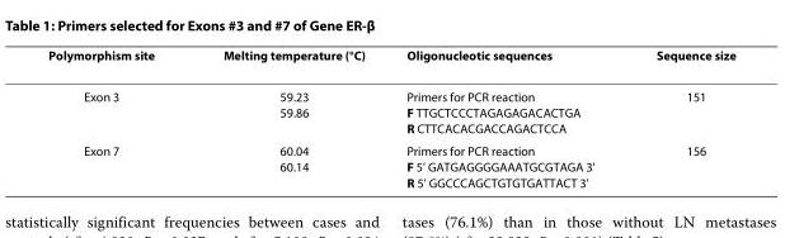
<table><thead><tr><td>Polymorphism site</td><td>Melting temperature (°C)</td><td>Oligonucleotic sequences</td><td>Sequence size</td></tr></thead><tbody><tr><td>Exon 3</td><td>59.23 59.86</td><td>Primers for PCR reaction F TTGCTCCCTAGAGAGACACTGA R CTTCACACGACCAGACTCCA</td><td>151</td></tr><tr><td>Exon 7</td><td>60.04 60.14</td><td>Primers for PCR reaction F 5&#x27; GATGAGGGGAAATGCGTAGA 3&#x27; R 5&#x27; GGCCCAGCTGTGTGATTACT 3&#x27;</td><td>156</td></tr></tbody></table>